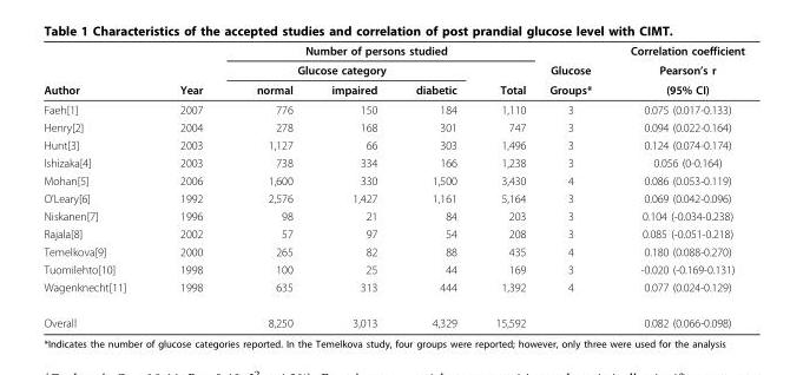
<table><thead><tr><td rowspan="3">Author</td><td rowspan="3">Year</td><td colspan="4">Number of persons studied</td><td rowspan="3">Glucose Groups*</td><td rowspan="3">Correlation coefficient Pearson’s r (95% CI)</td></tr><tr><td colspan="3">Glucose category</td><td rowspan="2">Total</td></tr><tr><td>normal</td><td>impaired</td><td>diabetic</td></tr></thead><tbody><tr><td>Faeh[1]</td><td>2007</td><td>776</td><td>150</td><td>184</td><td>1,110</td><td>3</td><td>0.075 (0.017-0.133)</td></tr><tr><td>Henry[2]</td><td>2004</td><td>278</td><td>168</td><td>301</td><td>747</td><td>3</td><td>0.094 (0.022-0.164)</td></tr><tr><td>Hunt[3]</td><td>2003</td><td>1,127</td><td>66</td><td>303</td><td>1,496</td><td>3</td><td>0.124 (0.074-0.174)</td></tr><tr><td>Ishizaka[4]</td><td>2003</td><td>738</td><td>334</td><td>166</td><td>1,238</td><td>3</td><td>0.056 (0-0.164)</td></tr><tr><td>Mohan[5]</td><td>2006</td><td>1,600</td><td>330</td><td>1,500</td><td>3,430</td><td>4</td><td>0.086 (0.053-0.119)</td></tr><tr><td>O’Leary[6]</td><td>1992</td><td>2,576</td><td>1,427</td><td>1,161</td><td>5,164</td><td>3</td><td>0.069 (0.042-0.096)</td></tr><tr><td>Niskanen[7]</td><td>1996</td><td>98</td><td>21</td><td>84</td><td>203</td><td>3</td><td>0.104 (-0.034-0.238)</td></tr><tr><td>Rajala[8]</td><td>2002</td><td>57</td><td>97</td><td>54</td><td>208</td><td>3</td><td>0.085 (-0.051-0.218)</td></tr><tr><td>Temelkova[9]</td><td>2000</td><td>265</td><td>82</td><td>88</td><td>435</td><td>4</td><td>0.180 (0.088-0.270)</td></tr><tr><td>Tuomilehto[10]</td><td>1998</td><td>100</td><td>25</td><td>44</td><td>169</td><td>3</td><td>-0.020 (-0.169-0.131)</td></tr><tr><td>Wagenknecht[11]</td><td>1998</td><td>635</td><td>313</td><td>444</td><td>1,392</td><td>4</td><td>0.077 (0.024-0.129)</td></tr><tr><td>Overall</td><td></td><td>8,250</td><td>3,013</td><td>4,329</td><td>15,592</td><td></td><td>0.082 (0.066-0.098)</td></tr></tbody></table>